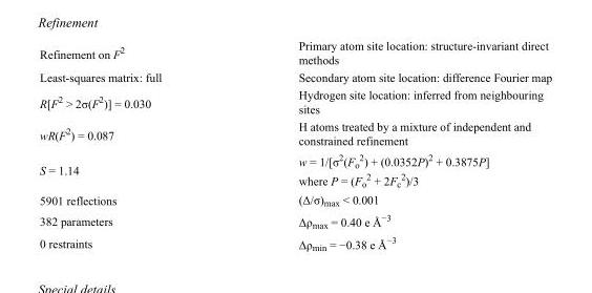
<table><tbody><tr><td>Refinement on F<sup>2</sup></td><td>Primary atom site location: structure-invariant direct methods</td></tr><tr><td>Least-squares matrix: full</td><td>Secondary atom site location: difference Fourier map</td></tr><tr><td>R[F<sup>2</sup> &gt; 2σ(F<sup>2</sup>)] = 0.030</td><td>Hydrogen site location: inferred from neighbouring sites</td></tr><tr><td>wR(F<sup>2</sup>) = 0.087</td><td>H atoms treated by a mixture of independent and constrained refinement</td></tr><tr><td>S = 1.14</td><td>w = 1/[σ<sup>2</sup>(F<sub>o</sub> <sup>2</sup>) + (0.0352P)<sup>2</sup> + 0.3875P] where P = (F<sub>o</sub> <sup>2</sup> + 2F<sub>c</sub> <sup>2</sup>)/3</td></tr><tr><td>5901 reflections</td><td>(Δ/σ)<sub>max</sub> &lt; 0.001</td></tr><tr><td>382 parameters</td><td>Δρ<sub>max</sub> = 0.40 e Å<sup>−3</sup></td></tr><tr><td>0 restraints</td><td>Δρ<sub>min</sub> = −0.38 e Å<sup>−3</sup></td></tr></tbody></table>